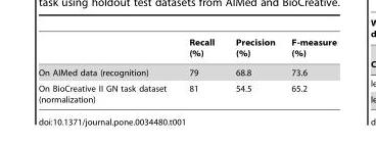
<table><thead><tr><td></td><td>Recall (%)</td><td>Precision (%)</td><td>F-measure (%)</td></tr></thead><tbody><tr><td>On AIMed data (recognition)</td><td>79</td><td>68.8</td><td>73.6</td></tr><tr><td>On BioCreative II GN task dataset (normalization)</td><td>81</td><td>54.5</td><td>65.2</td></tr></tbody></table>